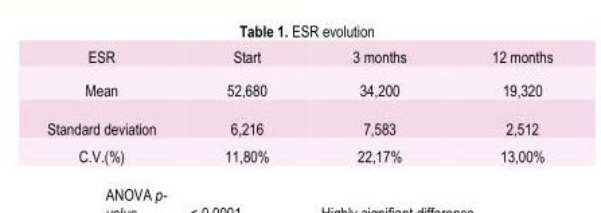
<table><thead><tr><td rowspan="4">ESR Mean Standard deviation C.V.(%)</td><td rowspan="4">Start 52,680 6,216 11,80%</td><td rowspan="4">3 months 34,200 7,583 22,17%</td><td rowspan="4">12 months 19,320 2,512 13,00%</td></tr><tr></tr><tr></tr><tr></tr></thead><tbody></tbody></table>